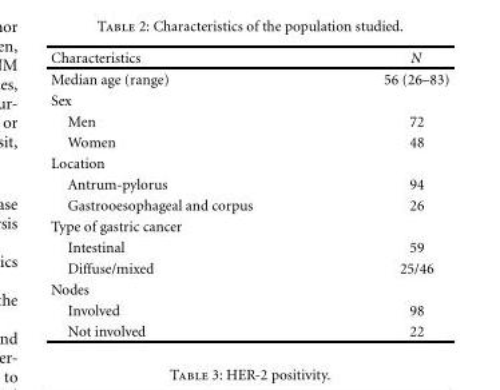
<table><thead><tr><td>Characteristics</td><td>N</td></tr></thead><tbody><tr><td>Median age (range)</td><td>56 (26–83)</td></tr><tr><td colspan="2">Sex</td></tr><tr><td>Men</td><td>72</td></tr><tr><td>Women</td><td>48</td></tr><tr><td colspan="2">Location</td></tr><tr><td>Antrum-pylorus</td><td>94</td></tr><tr><td>Gastrooesophageal and corpus</td><td>26</td></tr><tr><td colspan="2">Type of gastric cancer</td></tr><tr><td>Intestinal</td><td>59</td></tr><tr><td>Diffuse/mixed</td><td>25/46</td></tr><tr><td colspan="2">Nodes</td></tr><tr><td>Involved</td><td>98</td></tr><tr><td>Not involved</td><td>22</td></tr></tbody></table>